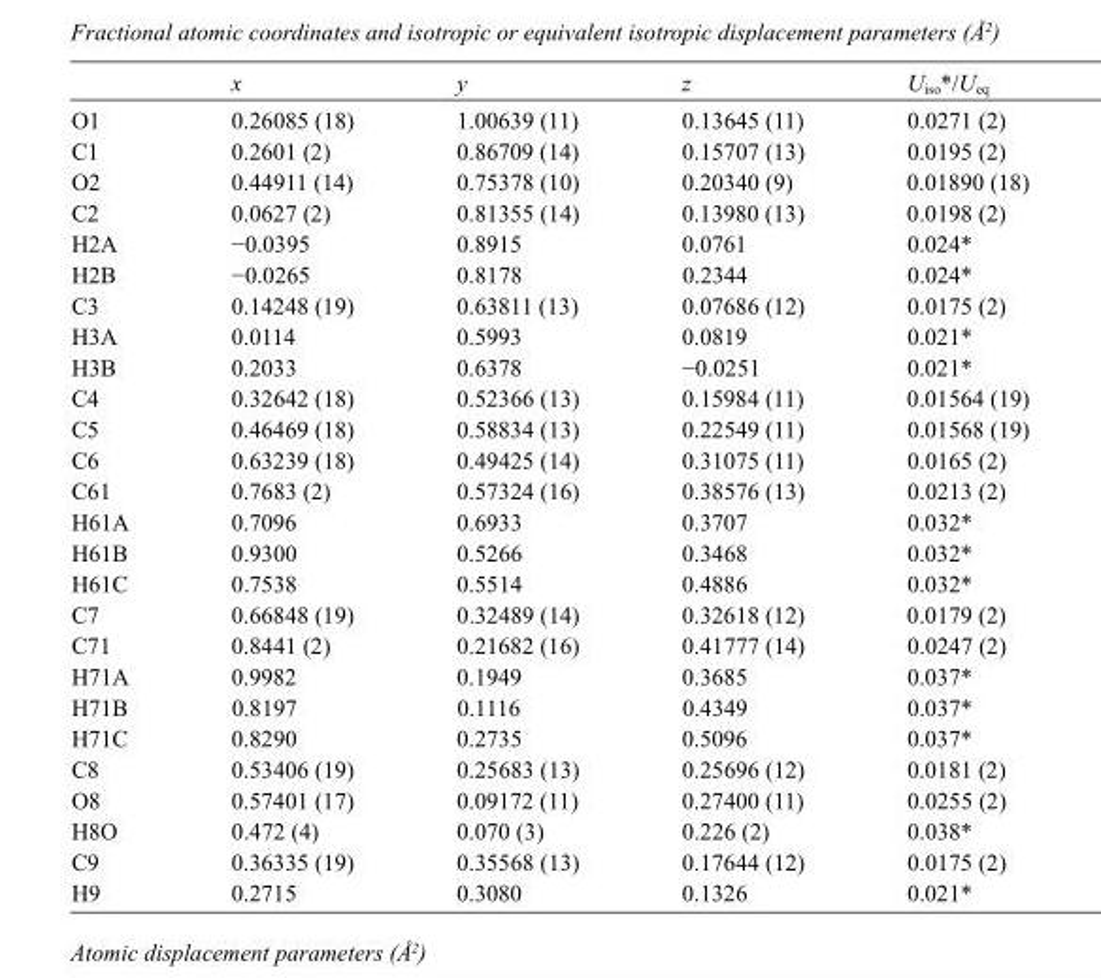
<table><thead><tr><td></td><td>x</td><td>y</td><td>z</td><td>U<sub>iso</sub>*/U<sub>eq</sub></td></tr></thead><tbody><tr><td>O1</td><td>0.26085 (18)</td><td>1.00639 (11)</td><td>0.13645 (11)</td><td>0.0271 (2)</td></tr><tr><td>C1</td><td>0.2601 (2)</td><td>0.86709 (14)</td><td>0.15707 (13)</td><td>0.0195 (2)</td></tr><tr><td>O2</td><td>0.44911 (14)</td><td>0.75378 (10)</td><td>0.20340 (9)</td><td>0.01890 (18)</td></tr><tr><td>C2</td><td>0.0627 (2)</td><td>0.81355 (14)</td><td>0.13980 (13)</td><td>0.0198 (2)</td></tr><tr><td>H2A</td><td>−0.0395</td><td>0.8915</td><td>0.0761</td><td>0.024*</td></tr><tr><td>H2B</td><td>−0.0265</td><td>0.8178</td><td>0.2344</td><td>0.024*</td></tr><tr><td>C3</td><td>0.14248 (19)</td><td>0.63811 (13)</td><td>0.07686 (12)</td><td>0.0175 (2)</td></tr><tr><td>H3A</td><td>0.0114</td><td>0.5993</td><td>0.0819</td><td>0.021*</td></tr><tr><td>H3B</td><td>0.2033</td><td>0.6378</td><td>−0.0251</td><td>0.021*</td></tr><tr><td>C4</td><td>0.32642 (18)</td><td>0.52366 (13)</td><td>0.15984 (11)</td><td>0.01564 (19)</td></tr><tr><td>C5</td><td>0.46469 (18)</td><td>0.58834 (13)</td><td>0.22549 (11)</td><td>0.01568 (19)</td></tr><tr><td>C6</td><td>0.63239 (18)</td><td>0.49425 (14)</td><td>0.31075 (11)</td><td>0.0165 (2)</td></tr><tr><td>C61</td><td>0.7683 (2)</td><td>0.57324 (16)</td><td>0.38576 (13)</td><td>0.0213 (2)</td></tr><tr><td>H61A</td><td>0.7096</td><td>0.6933</td><td>0.3707</td><td>0.032*</td></tr><tr><td>H61B</td><td>0.9300</td><td>0.5266</td><td>0.3468</td><td>0.032*</td></tr><tr><td>H61C</td><td>0.7538</td><td>0.5514</td><td>0.4886</td><td>0.032*</td></tr><tr><td>C7</td><td>0.66848 (19)</td><td>0.32489 (14)</td><td>0.32618 (12)</td><td>0.0179 (2)</td></tr><tr><td>C71</td><td>0.8441 (2)</td><td>0.21682 (16)</td><td>0.41777 (14)</td><td>0.0247 (2)</td></tr><tr><td>H71A</td><td>0.9982</td><td>0.1949</td><td>0.3685</td><td>0.037*</td></tr><tr><td>H71B</td><td>0.8197</td><td>0.1116</td><td>0.4349</td><td>0.037*</td></tr><tr><td>H71C</td><td>0.8290</td><td>0.2735</td><td>0.5096</td><td>0.037*</td></tr><tr><td>C8</td><td>0.53406 (19)</td><td>0.25683 (13)</td><td>0.25696 (12)</td><td>0.0181 (2)</td></tr><tr><td>O8</td><td>0.57401 (17)</td><td>0.09172 (11)</td><td>0.27400 (11)</td><td>0.0255 (2)</td></tr><tr><td>H8O</td><td>0.472 (4)</td><td>0.070 (3)</td><td>0.226 (2)</td><td>0.038*</td></tr><tr><td>C9</td><td>0.36335 (19)</td><td>0.35568 (13)</td><td>0.17644 (12)</td><td>0.0175 (2)</td></tr><tr><td>H9</td><td>0.2715</td><td>0.3080</td><td>0.1326</td><td>0.021*</td></tr></tbody></table>